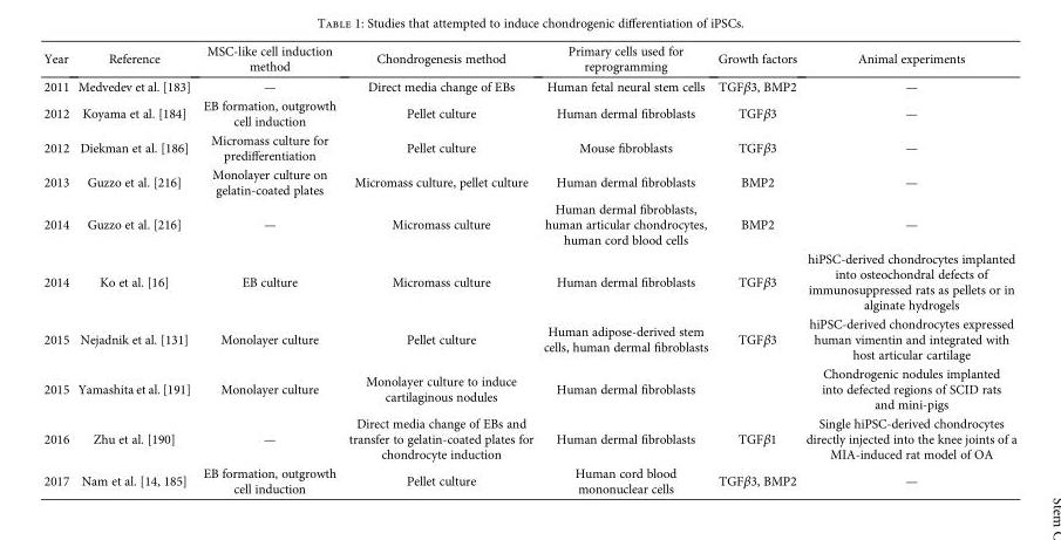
<table><thead><tr><td>Year</td><td>Reference</td><td>MSC-like cell induction method</td><td>Chondrogenesis method</td><td>Primary cells used for reprogramming</td><td>Growth factors</td><td>Animal experiments</td></tr></thead><tbody><tr><td>2011</td><td>Medvedev et al. [183]</td><td>—</td><td>Direct media change of EBs</td><td>Human fetal neural stem cells</td><td>TGFβ3, BMP2</td><td>—</td></tr><tr><td>2012</td><td>Koyama et al. [184]</td><td>EB formation, outgrowth cell induction</td><td>Pellet culture</td><td>Human dermal fibroblasts</td><td>TGFβ3</td><td>—</td></tr><tr><td>2012</td><td>Diekman et al. [186]</td><td>Micromass culture for predifferentiation</td><td>Pellet culture</td><td>Mouse fibroblasts</td><td>TGFβ3</td><td>—</td></tr><tr><td>2013</td><td>Guzzo et al. [216]</td><td>Monolayer culture on gelatin-coated plates</td><td>Micromass culture, pellet culture</td><td>Human dermal fibroblasts</td><td>BMP2</td><td>—</td></tr><tr><td>2014</td><td>Guzzo et al. [216]</td><td>—</td><td>Micromass culture</td><td>Human dermal fibroblasts, human articular chondrocytes, human cord blood cells</td><td>BMP2</td><td>—</td></tr><tr><td>2014</td><td>Ko et al. [16]</td><td>EB culture</td><td>Micromass culture</td><td>Human dermal fibroblasts</td><td>TGFβ3</td><td>hiPSC-derived chondrocytes implanted into osteochondral defects of immunosuppressed rats as pellets or in alginate hydrogels</td></tr><tr><td>2015</td><td>Nejadnik et al. [131]</td><td>Monolayer culture</td><td>Pellet culture</td><td>Human adipose-derived stem cells, human dermal fibroblasts</td><td>TGFβ3</td><td>hiPSC-derived chondrocytes expressed human vimentin and integrated with host articular cartilage</td></tr><tr><td>2015</td><td>Yamashita et al. [191]</td><td>Monolayer culture</td><td>Monolayer culture to induce cartilaginous nodules</td><td>Human dermal fibroblasts</td><td></td><td>Chondrogenic nodules implanted into defected regions of SCID rats and mini-pigs</td></tr><tr><td>2016</td><td>Zhu et al. [190]</td><td>—</td><td>Direct media change of EBs and transfer to gelatin-coated plates for chondrocyte induction</td><td>Human dermal fibroblasts</td><td>TGFβ1</td><td>Single hiPSC-derived chondrocytes directly injected into the knee joints of a MIA-induced rat model of OA</td></tr><tr><td>2017</td><td>Nam et al. [14, 185]</td><td>EB formation, outgrowth cell induction</td><td>Pellet culture</td><td>Human cord blood mononuclear cells</td><td>TGFβ3, BMP2</td><td>—</td></tr></tbody></table>